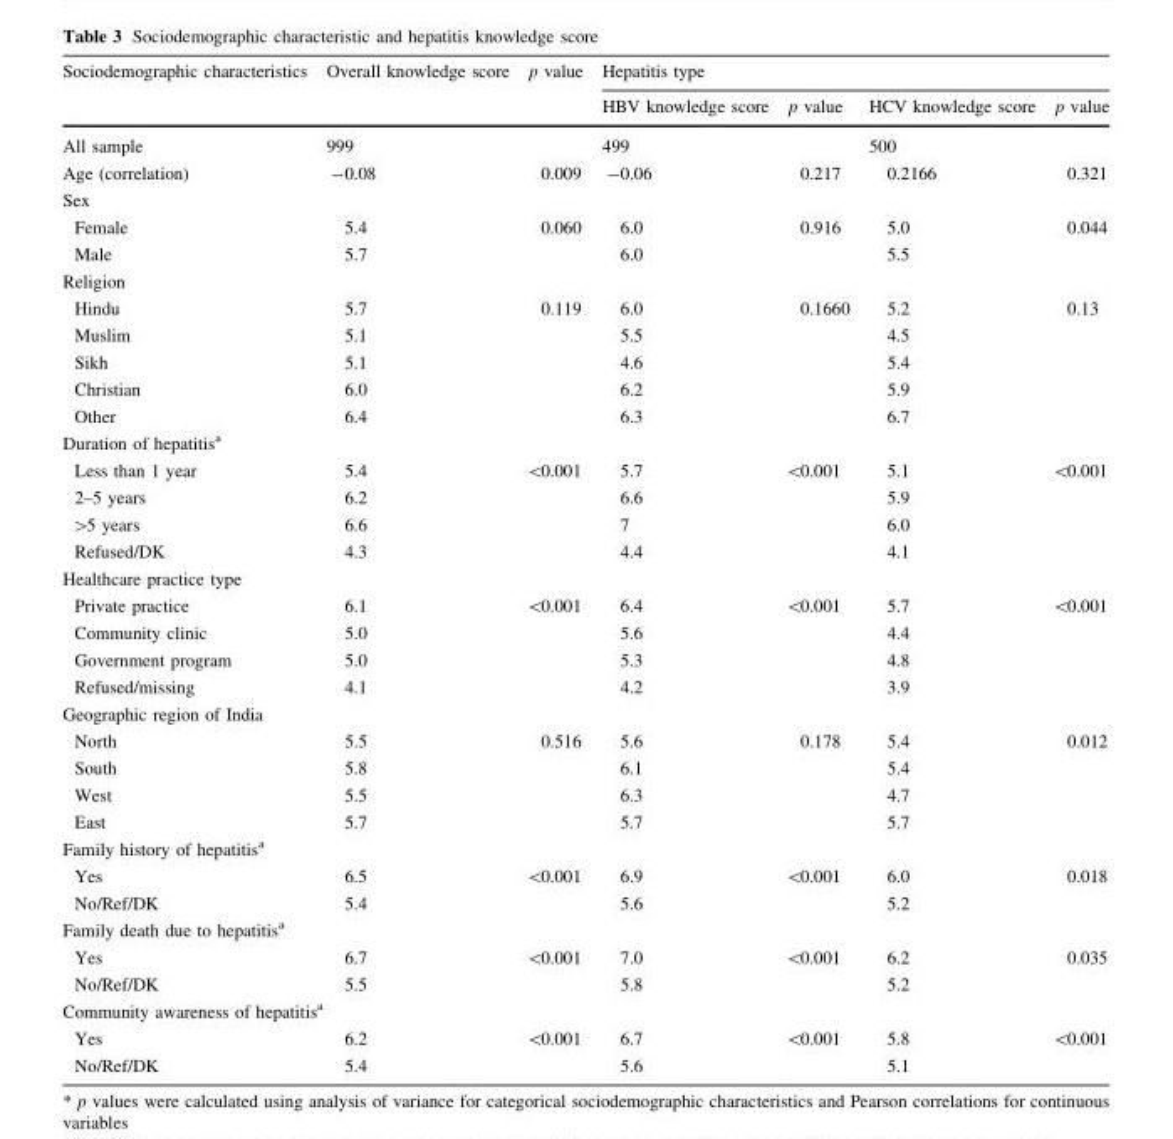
<table><thead><tr><td rowspan="2">Sociodemographic characteristics</td><td rowspan="2">Overall knowledge score</td><td rowspan="2">p value</td><td colspan="4">Hepatitis type</td></tr><tr><td>HBV knowledge score</td><td>p value</td><td>HCV knowledge score</td><td>p value</td></tr></thead><tbody><tr><td>All sample</td><td>999</td><td></td><td>499</td><td></td><td>500</td><td></td></tr><tr><td>Age (correlation)</td><td>-0.08</td><td>0.009</td><td>-0.06</td><td>0.217</td><td>0.2166</td><td>0.321</td></tr><tr><td colspan="7">Sex</td></tr><tr><td>Female</td><td>5.4</td><td rowspan="2">0.060</td><td>6.0</td><td rowspan="2">0.916</td><td>5.0</td><td rowspan="2">0.044</td></tr><tr><td>Male</td><td>5.7</td><td>6.0</td><td>5.5</td></tr><tr><td colspan="7">Religion</td></tr><tr><td>Hindu</td><td>5.7</td><td rowspan="5">0.119</td><td>6.0</td><td rowspan="5">0.1660</td><td>5.2</td><td rowspan="5">0.13</td></tr><tr><td>Muslim</td><td>5.1</td><td>5.5</td><td>4.5</td></tr><tr><td>Sikh</td><td>5.1</td><td>4.6</td><td>5.4</td></tr><tr><td>Christian</td><td>6.0</td><td>6.2</td><td>5.9</td></tr><tr><td>Other</td><td>6.4</td><td>6.3</td><td>6.7</td></tr><tr><td colspan="7">Duration of hepatitis<sup>a</sup></td></tr><tr><td>Less than 1 year</td><td>5.4</td><td rowspan="4">&lt;0.001</td><td>5.7</td><td rowspan="4">&lt;0.001</td><td>5.1</td><td rowspan="4">&lt;0.001</td></tr><tr><td>2–5 years</td><td>6.2</td><td>6.6</td><td>5.9</td></tr><tr><td>&gt;5 years</td><td>6.6</td><td>7</td><td>6.0</td></tr><tr><td>Refused/DK</td><td>4.3</td><td>4.4</td><td>4.1</td></tr><tr><td colspan="7">Healthcare practice type</td></tr><tr><td>Private practice</td><td>6.1</td><td rowspan="4">&lt;0.001</td><td>6.4</td><td rowspan="4">&lt;0.001</td><td>5.7</td><td rowspan="4">&lt;0.001</td></tr><tr><td>Community clinic</td><td>5.0</td><td>5.6</td><td>4.4</td></tr><tr><td>Government program</td><td>5.0</td><td>5.3</td><td>4.8</td></tr><tr><td>Refused/missing</td><td>4.1</td><td>4.2</td><td>3.9</td></tr><tr><td colspan="7">Geographic region of India</td></tr><tr><td>North</td><td>5.5</td><td rowspan="4">0.516</td><td>5.6</td><td rowspan="4">0.178</td><td>5.4</td><td rowspan="4">0.012</td></tr><tr><td>South</td><td>5.8</td><td>6.1</td><td>5.4</td></tr><tr><td>West</td><td>5.5</td><td>6.3</td><td>4.7</td></tr><tr><td>East</td><td>5.7</td><td>5.7</td><td>5.7</td></tr><tr><td colspan="7">Family history of hepatitis<sup>a</sup></td></tr><tr><td>Yes</td><td>6.5</td><td rowspan="2">&lt;0.001</td><td>6.9</td><td rowspan="2">&lt;0.001</td><td>6.0</td><td rowspan="2">0.018</td></tr><tr><td>No/Ref/DK</td><td>5.4</td><td>5.6</td><td>5.2</td></tr><tr><td colspan="7">Family death due to hepatitis<sup>a</sup></td></tr><tr><td>Yes</td><td>6.7</td><td rowspan="2">&lt;0.001</td><td>7.0</td><td rowspan="2">&lt;0.001</td><td>6.2</td><td rowspan="2">0.035</td></tr><tr><td>No/Ref/DK</td><td>5.5</td><td>5.8</td><td>5.2</td></tr><tr><td colspan="7">Community awareness of hepatitis<sup>a</sup></td></tr><tr><td>Yes</td><td>6.2</td><td rowspan="2">&lt;0.001</td><td>6.7</td><td rowspan="2">&lt;0.001</td><td>5.8</td><td rowspan="2">&lt;0.001</td></tr><tr><td>No/Ref/DK</td><td>5.4</td><td>5.6</td><td>5.1</td></tr></tbody></table>